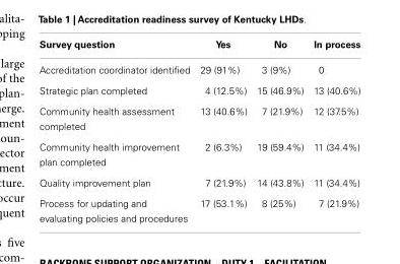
<table><thead><tr><td>Survey question</td><td>Yes</td><td>No</td><td>In process</td></tr></thead><tbody><tr><td>Accreditation coordinator identified</td><td>29 (91%)</td><td>3 (9%)</td><td>0</td></tr><tr><td>Strategic plan completed</td><td>4 (12.5%)</td><td>15 (46.9%)</td><td>13 (40.6%)</td></tr><tr><td>Community health assessment completed</td><td>13 (40.6%)</td><td>7 (21.9%)</td><td>12 (37.5%)</td></tr><tr><td>Community health improvement plan completed</td><td>2 (6.3%)</td><td>19 (59.4%)</td><td>11 (34.4%)</td></tr><tr><td>Quality improvement plan</td><td>7 (21.9%)</td><td>14 (43.8%)</td><td>11 (34.4%)</td></tr><tr><td>Process for updating and evaluating policies and procedures</td><td>17 (53.1%)</td><td>8 (25%)</td><td>7 (21.9%)</td></tr></tbody></table>